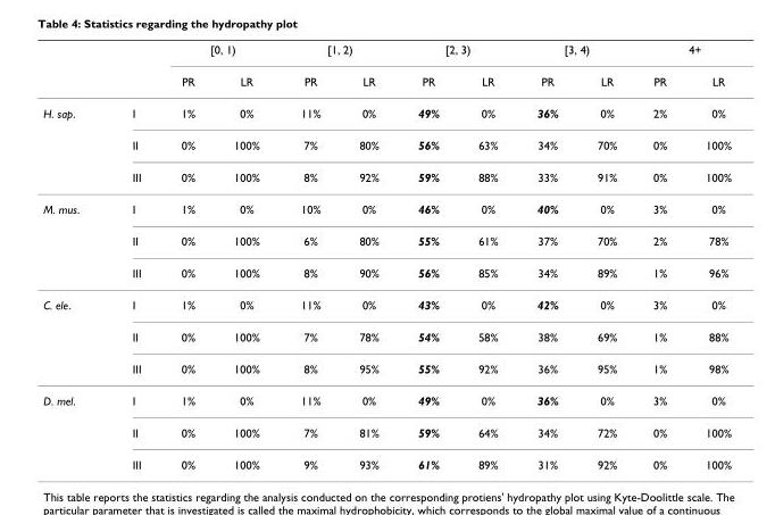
<table><thead><tr><td rowspan="2"></td><td rowspan="2"></td><td colspan="2">[0, 1)</td><td colspan="2">[1, 2)</td><td colspan="2">[2, 3)</td><td colspan="2">[3, 4)</td><td colspan="2">4+</td></tr><tr><td>PR</td><td>LR</td><td>PR</td><td>LR</td><td>PR</td><td>LR</td><td>PR</td><td>LR</td><td>PR</td><td>LR</td></tr></thead><tbody><tr><td rowspan="3">H. sap.</td><td>I</td><td>1%</td><td>0%</td><td>11%</td><td>0%</td><td>49%</td><td>0%</td><td>36%</td><td>0%</td><td>2%</td><td>0%</td></tr><tr><td>II</td><td>0%</td><td>100%</td><td>7%</td><td>80%</td><td>56%</td><td>63%</td><td>34%</td><td>70%</td><td>0%</td><td>100%</td></tr><tr><td>III</td><td>0%</td><td>100%</td><td>8%</td><td>92%</td><td>59%</td><td>88%</td><td>33%</td><td>91%</td><td>0%</td><td>100%</td></tr><tr><td rowspan="3">M. mus.</td><td>I</td><td>1%</td><td>0%</td><td>10%</td><td>0%</td><td>46%</td><td>0%</td><td>40%</td><td>0%</td><td>3%</td><td>0%</td></tr><tr><td>II</td><td>0%</td><td>100%</td><td>6%</td><td>80%</td><td>55%</td><td>61%</td><td>37%</td><td>70%</td><td>2%</td><td>78%</td></tr><tr><td>III</td><td>0%</td><td>100%</td><td>8%</td><td>90%</td><td>56%</td><td>85%</td><td>34%</td><td>89%</td><td>1%</td><td>96%</td></tr><tr><td rowspan="3">C. ele.</td><td>I</td><td>1%</td><td>0%</td><td>11%</td><td>0%</td><td>43%</td><td>0%</td><td>42%</td><td>0%</td><td>3%</td><td>0%</td></tr><tr><td>II</td><td>0%</td><td>100%</td><td>7%</td><td>78%</td><td>54%</td><td>58%</td><td>38%</td><td>69%</td><td>1%</td><td>88%</td></tr><tr><td>III</td><td>0%</td><td>100%</td><td>8%</td><td>95%</td><td>55%</td><td>92%</td><td>36%</td><td>95%</td><td>1%</td><td>98%</td></tr><tr><td rowspan="3">D. mel.</td><td>I</td><td>1%</td><td>0%</td><td>11%</td><td>0%</td><td>49%</td><td>0%</td><td>36%</td><td>0%</td><td>3%</td><td>0%</td></tr><tr><td>II</td><td>0%</td><td>100%</td><td>7%</td><td>81%</td><td>59%</td><td>64%</td><td>34%</td><td>72%</td><td>0%</td><td>100%</td></tr><tr><td>III</td><td>0%</td><td>100%</td><td>9%</td><td>93%</td><td>61%</td><td>89%</td><td>31%</td><td>92%</td><td>0%</td><td>100%</td></tr></tbody></table>